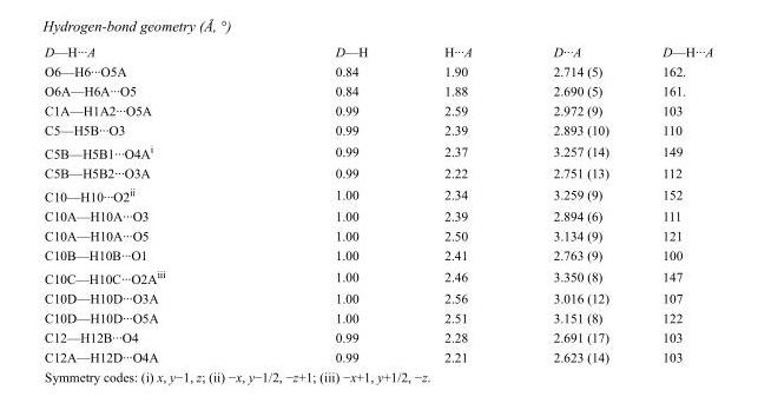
<table><tbody><tr><td>D—H···A</td><td>D—H</td><td>H···A</td><td>D···A</td><td>D—H···A</td></tr><tr><td>O6—H6···O5A</td><td>0.84</td><td>1.90</td><td>2.714 (5)</td><td>162.</td></tr><tr><td>O6A—H6A···O5</td><td>0.84</td><td>1.88</td><td>2.690 (5)</td><td>161.</td></tr><tr><td>C1A—H1A2···O5A</td><td>0.99</td><td>2.59</td><td>2.972 (9)</td><td>103</td></tr><tr><td>C5—H5B···O3</td><td>0.99</td><td>2.39</td><td>2.893 (10)</td><td>110</td></tr><tr><td>C5B—H5B1···O4A<sup>i</sup></td><td>0.99</td><td>2.37</td><td>3.257 (14)</td><td>149</td></tr><tr><td>C5B—H5B2···O3A</td><td>0.99</td><td>2.22</td><td>2.751 (13)</td><td>112</td></tr><tr><td>C10—H10···O2<sup>ii</sup></td><td>1.00</td><td>2.34</td><td>3.259 (9)</td><td>152</td></tr><tr><td>C10A—H10A···O3</td><td>1.00</td><td>2.39</td><td>2.894 (6)</td><td>111</td></tr><tr><td>C10A—H10A···O5</td><td>1.00</td><td>2.50</td><td>3.134 (9)</td><td>121</td></tr><tr><td>C10B—H10B···O1</td><td>1.00</td><td>2.41</td><td>2.763 (9)</td><td>100</td></tr><tr><td>C10C—H10C···O2A<sup>iii</sup></td><td>1.00</td><td>2.46</td><td>3.350 (8)</td><td>147</td></tr><tr><td>C10D—H10D···O3A</td><td>1.00</td><td>2.56</td><td>3.016 (12)</td><td>107</td></tr><tr><td>C10D—H10D···O5A</td><td>1.00</td><td>2.51</td><td>3.151 (8)</td><td>122</td></tr><tr><td>C12—H12B···O4</td><td>0.99</td><td>2.28</td><td>2.691 (17)</td><td>103</td></tr><tr><td>C12A—H12D···O4A</td><td>0.99</td><td>2.21</td><td>2.623 (14)</td><td>103</td></tr></tbody></table>